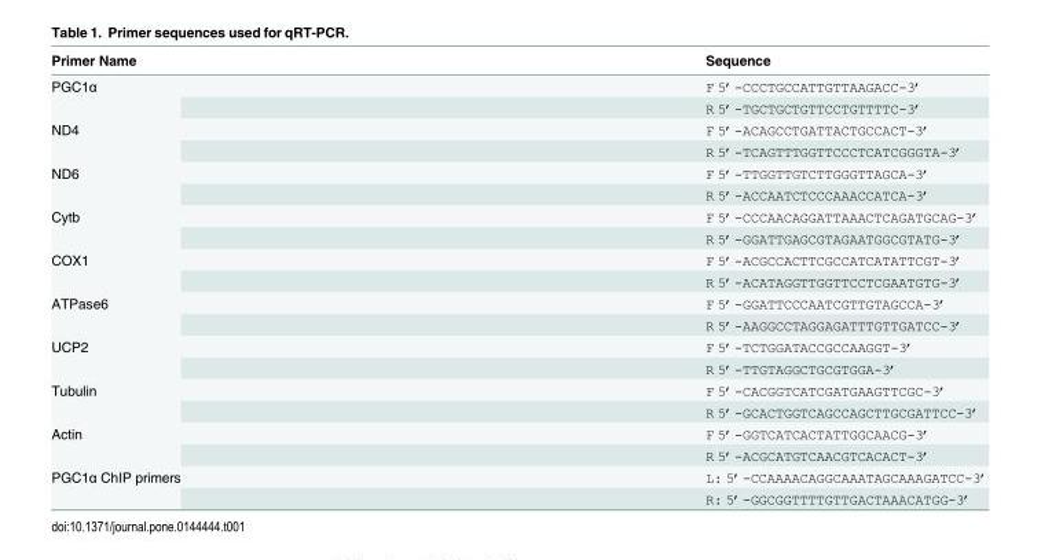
<table><thead><tr><td>Primer Name</td><td>Sequence</td></tr></thead><tbody><tr><td rowspan="2">PGC1α</td><td>F 5’-CCCTGCCATTGTTAAGACC-3’</td></tr><tr><td>R 5’-TGCTGCTGTTCCTGTTTTC-3’</td></tr><tr><td rowspan="2">ND4</td><td>F 5’-ACAGCCTGATTACTGCCACT-3’</td></tr><tr><td>R 5’-TCAGTTTGGTTCCCTCATCGGGTA-3’</td></tr><tr><td rowspan="2">ND6</td><td>F 5’-TTGGTTGTCTTGGGTTAGCA-3’</td></tr><tr><td>R 5’-ACCAATCTCCCAAACCATCA-3’</td></tr><tr><td rowspan="2">Cytb</td><td>F 5’-CCCAACAGGATTAAACTCAGATGCAG-3’</td></tr><tr><td>R 5’-GGATTGAGCGTAGAATGGCGTATG-3’</td></tr><tr><td rowspan="2">COX1</td><td>F 5’-ACGCCACTTCGCCATCATATTCGT-3’</td></tr><tr><td>R 5’-ACATAGGTTGGTTCCTCGAATGTG-3’</td></tr><tr><td rowspan="2">ATPase6</td><td>F 5’-GGATTCCCAATCGTTGTAGCCA-3’</td></tr><tr><td>R 5’-AAGGCCTAGGAGATTTGTTGATCC-3’</td></tr><tr><td rowspan="2">UCP2</td><td>F 5’-TCTGGATACCGCCAAGGT-3’</td></tr><tr><td>R 5’-TTGTAGGCTGCGTGGA-3’</td></tr><tr><td rowspan="2">Tubulin</td><td>F 5’-CACGGTCATCGATGAAGTTCGC-3’</td></tr><tr><td>R 5’-GCACTGGTCAGCCAGCTTGCGATTCC-3’</td></tr><tr><td rowspan="2">Actin</td><td>F 5’-GGTCATCACTATTGGCAACG-3’</td></tr><tr><td>R 5’-ACGCATGTCAACGTCACACT-3’</td></tr><tr><td rowspan="2">PGC1α ChIP primers</td><td>L: 5’-CCAAAACAGGCAAATAGCAAAGATCC-3’</td></tr><tr><td>R: 5’-GGCGGTTTTGTTGACTAAACATGG-3’</td></tr></tbody></table>